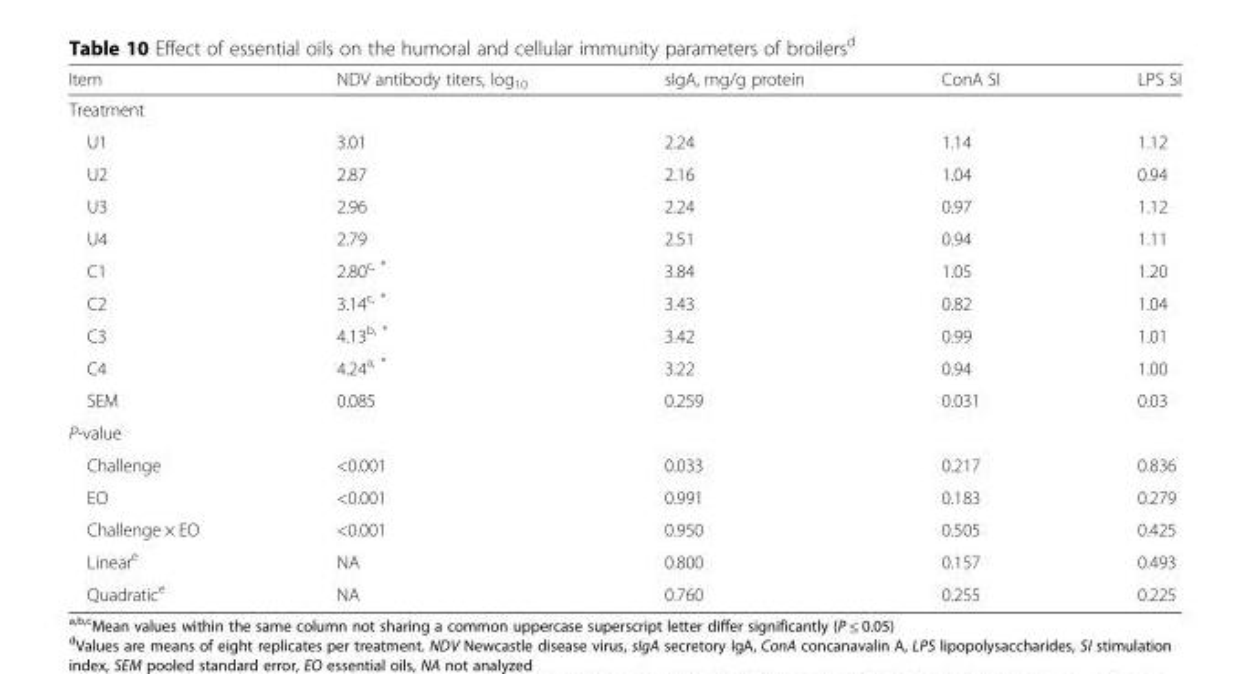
<table><thead><tr><td>Item</td><td>NDV antibody titers, log<sub>10</sub></td><td>sIgA, mg/g protein</td><td>ConA SI</td><td>LPS SI</td></tr></thead><tbody><tr><td colspan="5">Treatment</td></tr><tr><td>U1</td><td>3.01</td><td>2.24</td><td>1.14</td><td>1.12</td></tr><tr><td>U2</td><td>2.87</td><td>2.16</td><td>1.04</td><td>0.94</td></tr><tr><td>U3</td><td>2.96</td><td>2.24</td><td>0.97</td><td>1.12</td></tr><tr><td>U4</td><td>2.79</td><td>2.51</td><td>0.94</td><td>1.11</td></tr><tr><td>C1</td><td>2.80<sup>c, *</sup></td><td>3.84</td><td>1.05</td><td>1.20</td></tr><tr><td>C2</td><td>3.14<sup>c, *</sup></td><td>3.43</td><td>0.82</td><td>1.04</td></tr><tr><td>C3</td><td>4.13<sup>b, *</sup></td><td>3.42</td><td>0.99</td><td>1.01</td></tr><tr><td>C4</td><td>4.24<sup>a, *</sup></td><td>3.22</td><td>0.94</td><td>1.00</td></tr><tr><td>SEM</td><td>0.085</td><td>0.259</td><td>0.031</td><td>0.03</td></tr><tr><td colspan="5">P-value</td></tr><tr><td>Challenge</td><td>&lt;0.001</td><td>0.033</td><td>0.217</td><td>0.836</td></tr><tr><td>EO</td><td>&lt;0.001</td><td>0.991</td><td>0.183</td><td>0.279</td></tr><tr><td>Challenge × EO</td><td>&lt;0.001</td><td>0.950</td><td>0.505</td><td>0.425</td></tr><tr><td>Linear<sup>e</sup></td><td>NA</td><td>0.800</td><td>0.157</td><td>0.493</td></tr><tr><td>Quadratic<sup>e</sup></td><td>NA</td><td>0.760</td><td>0.255</td><td>0.225</td></tr></tbody></table>